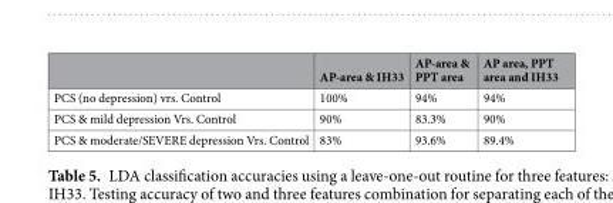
<table><thead><tr><td></td><td>AP-area &amp; IH33</td><td>AP-area &amp; PPT area</td><td>AP area, PPT area and IH33</td></tr></thead><tbody><tr><td>PCS (no depression) vrs. Control</td><td>100%</td><td>94%</td><td>94%</td></tr><tr><td>PCS &amp; mild depression Vrs. Control</td><td>90%</td><td>83.3%</td><td>90%</td></tr><tr><td>PCS &amp; moderate/SEVERE depression Vrs. Control</td><td>83%</td><td>93.6%</td><td>89.4%</td></tr></tbody></table>